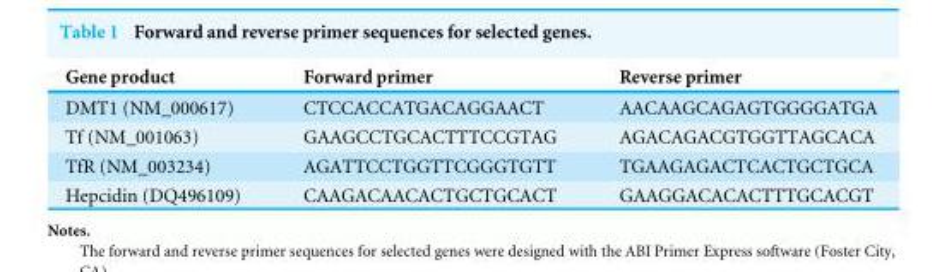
<table><thead><tr><td>Gene product</td><td>Forward primer</td><td>Reverse primer</td></tr></thead><tbody><tr><td>DMT1 (NM_000617)</td><td>CTCCACCATGACAGGAACT</td><td>AACAAGCAGAGTGGGGATGA</td></tr><tr><td>Tf (NM_001063)</td><td>GAAGCCTGCACTTTCCGTAG</td><td>AGACAGACGTGGTTAGCACA</td></tr><tr><td>TfR (NM_003234)</td><td>AGATTCCTGGTTCGGGTGTT</td><td>TGAAGAGACTCACTGCTGCA</td></tr><tr><td>Hepcidin (DQ496109)</td><td>CAAGACAACACTGCTGCACT</td><td>GAAGGACACACTTTGCACGT</td></tr></tbody></table>